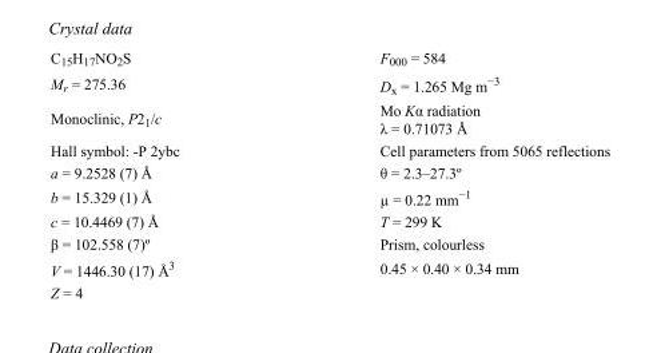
<table><tbody><tr><td>C<sub>15</sub>H<sub>17</sub>NO<sub>2</sub>S</td><td>F000 = 584</td></tr><tr><td>M<sub>r</sub> = 275.36</td><td>D<sub>x</sub> = 1.265 Mg m<sup>−3</sup></td></tr><tr><td>Monoclinic, P2<sub>1</sub>/c</td><td>Mo Kα radiation λ = 0.71073 Å</td></tr><tr><td>Hall symbol: -P 2ybc</td><td>Cell parameters from 5065 reflections</td></tr><tr><td>a = 9.2528 (7) Å</td><td>θ = 2.3–27.3º</td></tr><tr><td>b = 15.329 (1) Å</td><td>µ = 0.22 mm<sup>−1</sup></td></tr><tr><td>c = 10.4469 (7) Å</td><td>T = 299 K</td></tr><tr><td>β = 102.558 (7)º</td><td>Prism, colourless</td></tr><tr><td>V = 1446.30 (17) Å<sup>3</sup></td><td>0.45 × 0.40 × 0.34 mm</td></tr><tr><td>Z = 4</td><td></td></tr></tbody></table>